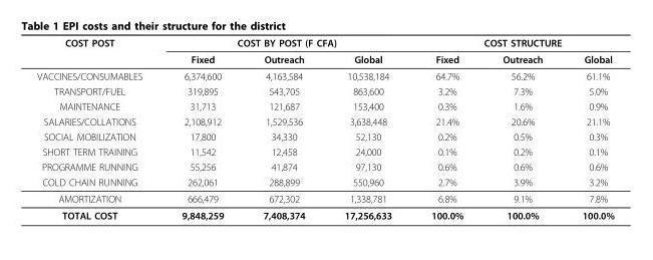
<table><thead><tr><td rowspan="2">COST POST</td><td colspan="3">COST BY POST (F CFA)</td><td colspan="3">COST STRUCTURE</td></tr><tr><td>Fixed</td><td>Outreach</td><td>Global</td><td>Fixed</td><td>Outreach</td><td>Global</td></tr></thead><tbody><tr><td>VACCINES/CONSUMABLES</td><td>6,374,600</td><td>4,163,584</td><td>10,538,184</td><td>64.7%</td><td>56.2%</td><td>61.1%</td></tr><tr><td>TRANSPORT/FUEL</td><td>319,895</td><td>543,705</td><td>863,600</td><td>3.2%</td><td>7.3%</td><td>5.0%</td></tr><tr><td>MAINTENANCE</td><td>31,713</td><td>121,687</td><td>153,400</td><td>0.3%</td><td>1.6%</td><td>0.9%</td></tr><tr><td>SALARIES/COLLATIONS</td><td>2,108,912</td><td>1,529,536</td><td>3,638,448</td><td>21.4%</td><td>20.6%</td><td>21.1%</td></tr><tr><td>SOCIAL MOBILIZATION</td><td>17,800</td><td>34,330</td><td>52,130</td><td>0.2%</td><td>0.5%</td><td>0.3%</td></tr><tr><td>SHORT TERM TRAINING</td><td>11,542</td><td>12,458</td><td>24,000</td><td>0.1%</td><td>0.2%</td><td>0.1%</td></tr><tr><td>PROGRAMME RUNNING</td><td>55,256</td><td>41,874</td><td>97,130</td><td>0.6%</td><td>0.6%</td><td>0.6%</td></tr><tr><td>COLD CHAIN RUNNING</td><td>262,061</td><td>288,899</td><td>550,960</td><td>2.7%</td><td>3.9%</td><td>3.2%</td></tr><tr><td>AMORTIZATION</td><td>666,479</td><td>672,302</td><td>1,338,781</td><td>6.8%</td><td>9.1%</td><td>7.8%</td></tr><tr><td>TOTAL COST</td><td>9,848,259</td><td>7,408,374</td><td>17,256,633</td><td>100.0%</td><td>100.0%</td><td>100.0%</td></tr></tbody></table>